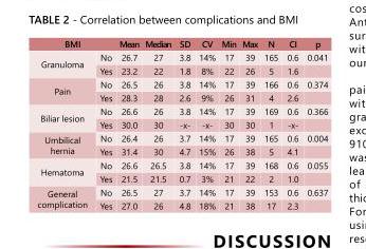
<table><tbody><tr><td colspan="2">BMI</td><td>Mean</td><td>Median</td><td>SD</td><td>CV</td><td>Min</td><td>Max</td><td>N</td><td>CI</td><td>p</td></tr><tr><td rowspan="2">Granuloma</td><td>No</td><td>26.7</td><td>27</td><td>3.8</td><td>14%</td><td>17</td><td>39</td><td>165</td><td>0.6</td><td>0.041</td></tr><tr><td>Yes</td><td>23.2</td><td>22</td><td>1.8</td><td>8%</td><td>22</td><td>26</td><td>5</td><td>1.6</td><td></td></tr><tr><td rowspan="2">Pain</td><td>No</td><td>26.5</td><td>26</td><td>3.8</td><td>14%</td><td>17</td><td>39</td><td>166</td><td>0.6</td><td>0.374</td></tr><tr><td>Yes</td><td>28.3</td><td>28</td><td>2.6</td><td>9%</td><td>26</td><td>31</td><td>4</td><td>2.6</td><td></td></tr><tr><td rowspan="2">Biliar lesion</td><td>No</td><td>26.6</td><td>26</td><td>3.8</td><td>14%</td><td>17</td><td>39</td><td>169</td><td>0.6</td><td>0.366</td></tr><tr><td>Yes</td><td>30.0</td><td>30</td><td>-x-</td><td>-x-</td><td>30</td><td>30</td><td>1</td><td>-x-</td><td></td></tr><tr><td rowspan="2">Umbilical hernia</td><td>No</td><td>26.4</td><td>26</td><td>3.7</td><td>14%</td><td>17</td><td>39</td><td>165</td><td>0.6</td><td>0.004</td></tr><tr><td>Yes</td><td>31.4</td><td>30</td><td>4.7</td><td>15%</td><td>26</td><td>38</td><td>5</td><td>4.1</td><td></td></tr><tr><td rowspan="2">Hematoma</td><td>No</td><td>26.6</td><td>26.5</td><td>3.8</td><td>14%</td><td>17</td><td>39</td><td>168</td><td>0.6</td><td>0.055</td></tr><tr><td>Yes</td><td>21.5</td><td>21.5</td><td>0.7</td><td>3%</td><td>21</td><td>22</td><td>2</td><td>1.0</td><td></td></tr><tr><td rowspan="2">General complication</td><td>No</td><td>26.5</td><td>27</td><td>3.7</td><td>14%</td><td>17</td><td>39</td><td>153</td><td>0.6</td><td>0.637</td></tr><tr><td>Yes</td><td>27.0</td><td>26</td><td>4.8</td><td>18%</td><td>21</td><td>38</td><td>17</td><td>2.3</td><td></td></tr></tbody></table>